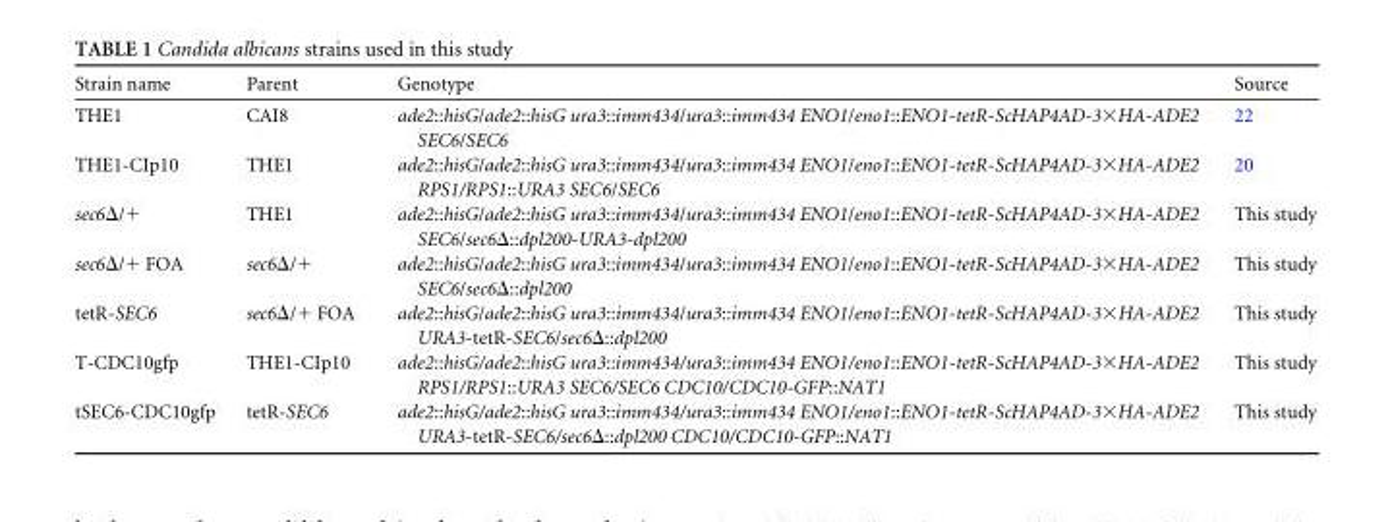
<table><thead><tr><td>Strain name</td><td>Parent</td><td>Genotype</td><td>Source</td></tr></thead><tbody><tr><td>THE1</td><td>CAI8</td><td>ade2::hisG/ade2::hisG ura3::imm434/ura3::imm434 ENO1/eno1::ENO1-tetR-ScHAP4AD-3×HA-ADE2 SEC6/SEC6</td><td>22</td></tr><tr><td>THE1-CIp10</td><td>THE1</td><td>ade2::hisG/ade2::hisG ura3::imm434/ura3::imm434 ENO1/eno1::ENO1-tetR-ScHAP4AD-3×HA-ADE2 RPS1/RPS1::URA3 SEC6/SEC6</td><td>20</td></tr><tr><td>sec6Δ/+</td><td>THE1</td><td>ade2::hisG/ade2::hisG ura3::imm434/ura3::imm434 ENO1/eno1::ENO1-tetR-ScHAP4AD-3×HA-ADE2 SEC6/sec6Δ::dpl200-URA3-dpl200</td><td>This study</td></tr><tr><td>sec6Δ/+ FOA</td><td>sec6Δ/+</td><td>ade2::hisG/ade2::hisG ura3::imm434/ura3::imm434 ENO1/eno1::ENO1-tetR-ScHAP4AD-3×HA-ADE2 SEC6/sec6Δ::dpl200</td><td>This study</td></tr><tr><td>tetR-SEC6</td><td>sec6Δ/+ FOA</td><td>ade2::hisG/ade2::hisG ura3::imm434/ura3::imm434 ENO1/eno1::ENO1-tetR-ScHAP4AD-3×HA-ADE2 URA3-tetR-SEC6/sec6Δ::dpl200</td><td>This study</td></tr><tr><td>T-CDC10gfp</td><td>THE1-CIp10</td><td>ade2::hisG/ade2::hisG ura3::imm434/ura3::imm434 ENO1/eno1::ENO1-tetR-ScHAP4AD-3×HA-ADE2 RPS1/RPS1::URA3 SEC6/SEC6 CDC10/CDC10-GFP::NAT1</td><td>This study</td></tr><tr><td>tSEC6-CDC10gfp</td><td>tetR-SEC6</td><td>ade2::hisG/ade2::hisG ura3::imm434/ura3::imm434 ENO1/eno1::ENO1-tetR-ScHAP4AD-3×HA-ADE2 URA3-tetR-SEC6/sec6Δ::dpl200 CDC10/CDC10-GFP::NAT1</td><td>This study</td></tr></tbody></table>